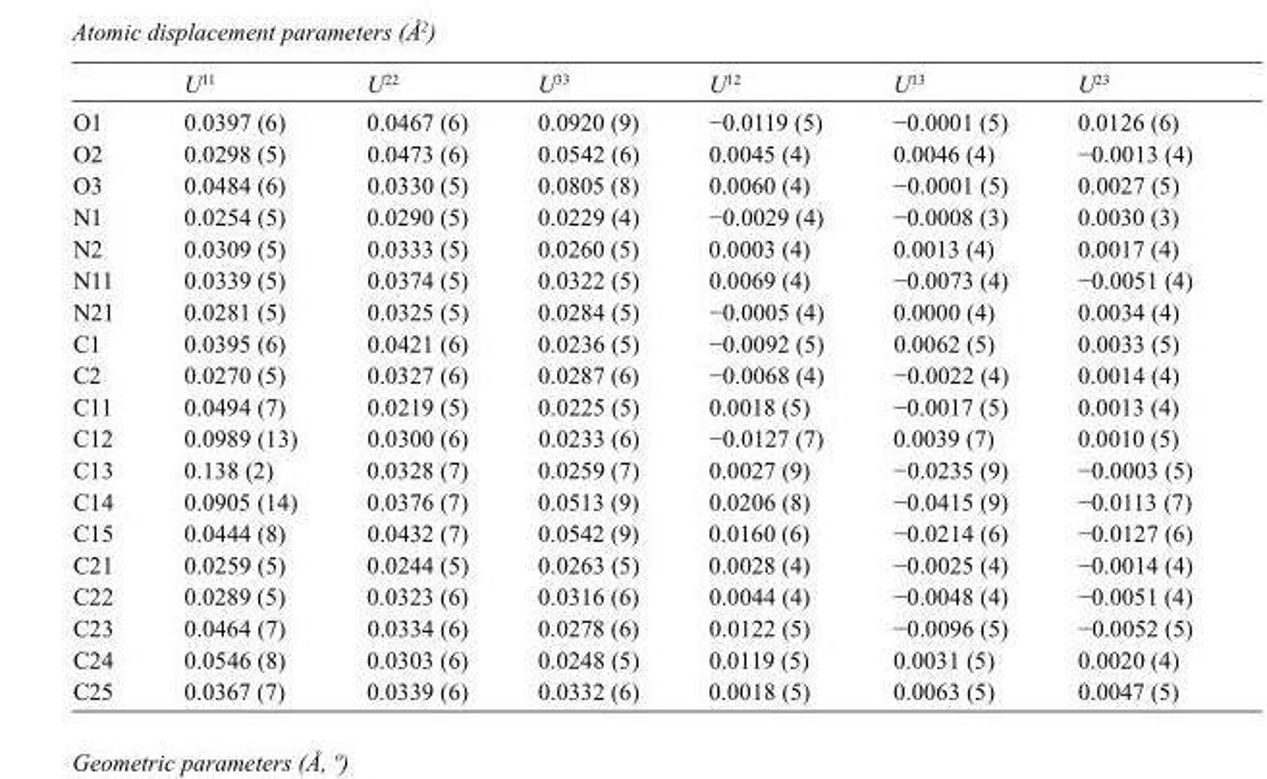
<table><thead><tr><td></td><td>U<sup>11</sup></td><td>U<sup>22</sup></td><td>U<sup>33</sup></td><td>U<sup>12</sup></td><td>U<sup>13</sup></td><td>U<sup>23</sup></td></tr></thead><tbody><tr><td>O1</td><td>0.0397 (6)</td><td>0.0467 (6)</td><td>0.0920 (9)</td><td>−0.0119 (5)</td><td>−0.0001 (5)</td><td>0.0126 (6)</td></tr><tr><td>O2</td><td>0.0298 (5)</td><td>0.0473 (6)</td><td>0.0542 (6)</td><td>0.0045 (4)</td><td>0.0046 (4)</td><td>−0.0013 (4)</td></tr><tr><td>O3</td><td>0.0484 (6)</td><td>0.0330 (5)</td><td>0.0805 (8)</td><td>0.0060 (4)</td><td>−0.0001 (5)</td><td>0.0027 (5)</td></tr><tr><td>N1</td><td>0.0254 (5)</td><td>0.0290 (5)</td><td>0.0229 (4)</td><td>−0.0029 (4)</td><td>−0.0008 (3)</td><td>0.0030 (3)</td></tr><tr><td>N2</td><td>0.0309 (5)</td><td>0.0333 (5)</td><td>0.0260 (5)</td><td>0.0003 (4)</td><td>0.0013 (4)</td><td>0.0017 (4)</td></tr><tr><td>N11</td><td>0.0339 (5)</td><td>0.0374 (5)</td><td>0.0322 (5)</td><td>0.0069 (4)</td><td>−0.0073 (4)</td><td>−0.0051 (4)</td></tr><tr><td>N21</td><td>0.0281 (5)</td><td>0.0325 (5)</td><td>0.0284 (5)</td><td>−0.0005 (4)</td><td>0.0000 (4)</td><td>0.0034 (4)</td></tr><tr><td>C1</td><td>0.0395 (6)</td><td>0.0421 (6)</td><td>0.0236 (5)</td><td>−0.0092 (5)</td><td>0.0062 (5)</td><td>0.0033 (5)</td></tr><tr><td>C2</td><td>0.0270 (5)</td><td>0.0327 (6)</td><td>0.0287 (6)</td><td>−0.0068 (4)</td><td>−0.0022 (4)</td><td>0.0014 (4)</td></tr><tr><td>C11</td><td>0.0494 (7)</td><td>0.0219 (5)</td><td>0.0225 (5)</td><td>0.0018 (5)</td><td>−0.0017 (5)</td><td>0.0013 (4)</td></tr><tr><td>C12</td><td>0.0989 (13)</td><td>0.0300 (6)</td><td>0.0233 (6)</td><td>−0.0127 (7)</td><td>0.0039 (7)</td><td>0.0010 (5)</td></tr><tr><td>C13</td><td>0.138 (2)</td><td>0.0328 (7)</td><td>0.0259 (7)</td><td>0.0027 (9)</td><td>−0.0235 (9)</td><td>−0.0003 (5)</td></tr><tr><td>C14</td><td>0.0905 (14)</td><td>0.0376 (7)</td><td>0.0513 (9)</td><td>0.0206 (8)</td><td>−0.0415 (9)</td><td>−0.0113 (7)</td></tr><tr><td>C15</td><td>0.0444 (8)</td><td>0.0432 (7)</td><td>0.0542 (9)</td><td>0.0160 (6)</td><td>−0.0214 (6)</td><td>−0.0127 (6)</td></tr><tr><td>C21</td><td>0.0259 (5)</td><td>0.0244 (5)</td><td>0.0263 (5)</td><td>0.0028 (4)</td><td>−0.0025 (4)</td><td>−0.0014 (4)</td></tr><tr><td>C22</td><td>0.0289 (5)</td><td>0.0323 (6)</td><td>0.0316 (6)</td><td>0.0044 (4)</td><td>−0.0048 (4)</td><td>−0.0051 (4)</td></tr><tr><td>C23</td><td>0.0464 (7)</td><td>0.0334 (6)</td><td>0.0278 (6)</td><td>0.0122 (5)</td><td>−0.0096 (5)</td><td>−0.0052 (5)</td></tr><tr><td>C24</td><td>0.0546 (8)</td><td>0.0303 (6)</td><td>0.0248 (5)</td><td>0.0119 (5)</td><td>0.0031 (5)</td><td>0.0020 (4)</td></tr><tr><td>C25</td><td>0.0367 (7)</td><td>0.0339 (6)</td><td>0.0332 (6)</td><td>0.0018 (5)</td><td>0.0063 (5)</td><td>0.0047 (5)</td></tr></tbody></table>